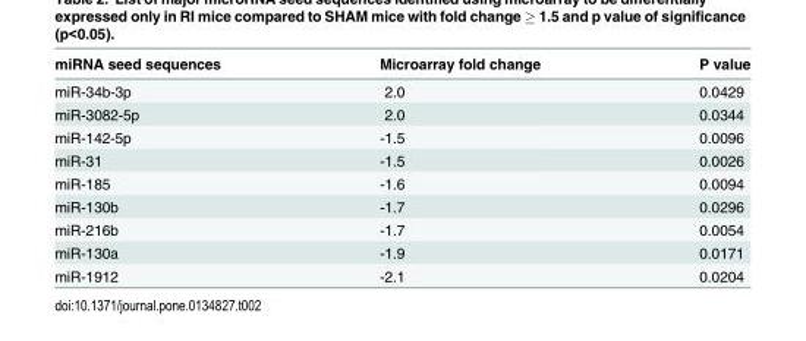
<table><thead><tr><td>miRNA seed sequences</td><td>Microarray fold change</td><td>P value</td></tr></thead><tbody><tr><td>miR-34b-3p</td><td>2.0</td><td>0.0429</td></tr><tr><td>miR-3082-5p</td><td>2.0</td><td>0.0344</td></tr><tr><td>miR-142-5p</td><td>-1.5</td><td>0.0096</td></tr><tr><td>miR-31</td><td>-1.5</td><td>0.0026</td></tr><tr><td>miR-185</td><td>-1.6</td><td>0.0094</td></tr><tr><td>miR-130b</td><td>-1.7</td><td>0.0296</td></tr><tr><td>miR-216b</td><td>-1.7</td><td>0.0054</td></tr><tr><td>miR-130a</td><td>-1.9</td><td>0.0171</td></tr><tr><td>miR-1912</td><td>-2.1</td><td>0.0204</td></tr></tbody></table>